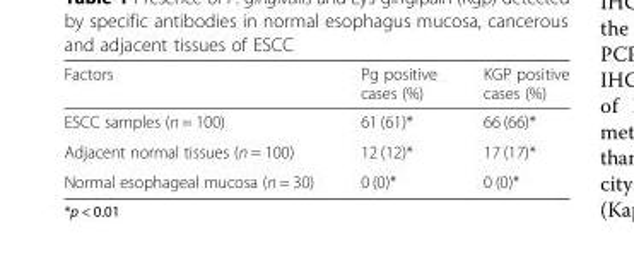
<table><thead><tr><td>Factors</td><td>Pg positive cases (%)</td><td>KGP positive cases (%)</td></tr></thead><tbody><tr><td>ESCC samples (n = 100)</td><td>61 (61)*</td><td>66 (66)*</td></tr><tr><td>Adjacent normal tissues (n = 100)</td><td>12 (12)*</td><td>17 (17)*</td></tr><tr><td>Normal esophageal mucosa (n = 30)</td><td>0 (0)*</td><td>0 (0)*</td></tr></tbody></table>